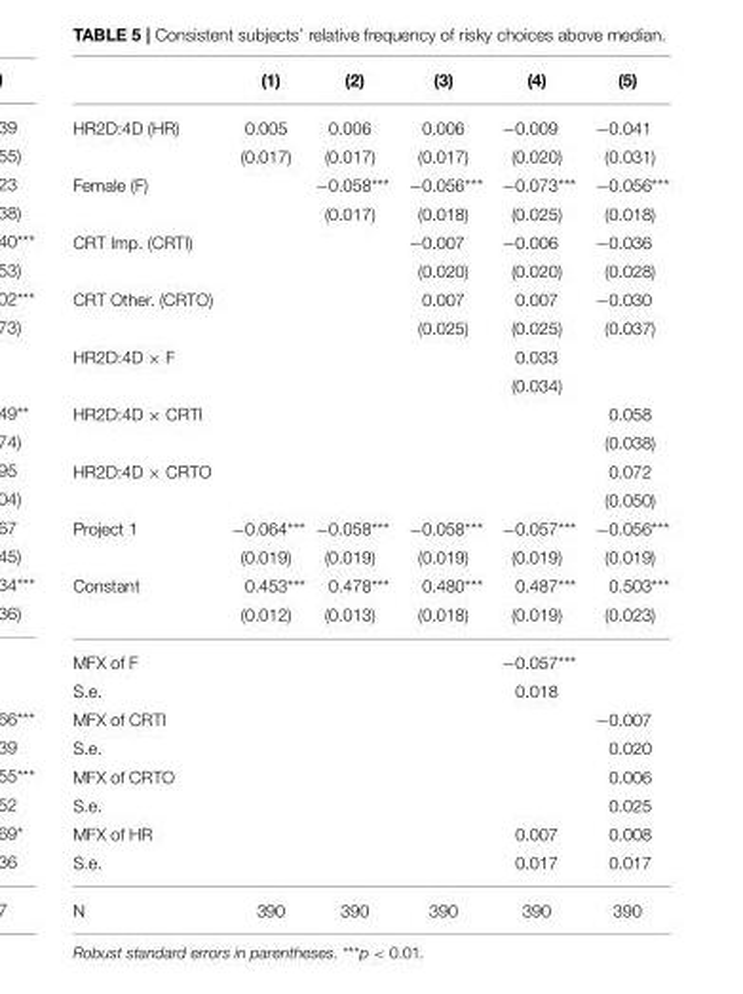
<table><thead><tr><td></td><td>(1)</td><td>(2)</td><td>(3)</td><td>(4)</td><td>(5)</td></tr></thead><tbody><tr><td rowspan="2">HR2D:4D (HR)</td><td>0.005</td><td>0.006</td><td>0.006</td><td>−0.009</td><td>−0.041</td></tr><tr><td>(0.017)</td><td>(0.017)</td><td>(0.017)</td><td>(0.020)</td><td>(0.031)</td></tr><tr><td rowspan="2">Female (F)</td><td></td><td>−0.058***</td><td>−0.056***</td><td>−0.073***</td><td>−0.056***</td></tr><tr><td></td><td>(0.017)</td><td>(0.018)</td><td>(0.025)</td><td>(0.018)</td></tr><tr><td rowspan="2">CRT Imp. (CRTI)</td><td></td><td></td><td>−0.007</td><td>−0.006</td><td>−0.036</td></tr><tr><td></td><td></td><td>(0.020)</td><td>(0.020)</td><td>(0.028)</td></tr><tr><td rowspan="2">CRT Other. (CRTO)</td><td></td><td></td><td>0.007</td><td>0.007</td><td>−0.030</td></tr><tr><td></td><td></td><td>(0.025)</td><td>(0.025)</td><td>(0.037)</td></tr><tr><td rowspan="2">HR2D:4D × F</td><td></td><td></td><td></td><td>0.033</td><td></td></tr><tr><td></td><td></td><td></td><td>(0.034)</td><td></td></tr><tr><td rowspan="2">HR2D:4D × CRTI</td><td></td><td></td><td></td><td></td><td>0.058</td></tr><tr><td></td><td></td><td></td><td></td><td>(0.038)</td></tr><tr><td rowspan="2">HR2D:4D × CRTO</td><td></td><td></td><td></td><td></td><td>0.072</td></tr><tr><td></td><td></td><td></td><td></td><td>(0.050)</td></tr><tr><td rowspan="2">Project 1</td><td>−0.064***</td><td>−0.058***</td><td>−0.058***</td><td>−0.057***</td><td>−0.056***</td></tr><tr><td>(0.019)</td><td>(0.019)</td><td>(0.019)</td><td>(0.019)</td><td>(0.019)</td></tr><tr><td rowspan="2">Constant</td><td>0.453***</td><td>0.478***</td><td>0.480***</td><td>0.487***</td><td>0.503***</td></tr><tr><td>(0.012)</td><td>(0.013)</td><td>(0.018)</td><td>(0.019)</td><td>(0.023)</td></tr><tr><td>MFX of F</td><td></td><td></td><td></td><td>−0.057***</td><td></td></tr><tr><td>S.e.</td><td></td><td></td><td></td><td>0.018</td><td></td></tr><tr><td>MFX of CRTI</td><td></td><td></td><td></td><td></td><td>−0.007</td></tr><tr><td>S.e.</td><td></td><td></td><td></td><td></td><td>0.020</td></tr><tr><td>MFX of CRTO</td><td></td><td></td><td></td><td></td><td>0.006</td></tr><tr><td>S.e.</td><td></td><td></td><td></td><td></td><td>0.025</td></tr><tr><td>MFX of HR</td><td></td><td></td><td></td><td>0.007</td><td>0.008</td></tr><tr><td>S.e.</td><td></td><td></td><td></td><td>0.017</td><td>0.017</td></tr><tr><td>N</td><td>390</td><td>390</td><td>390</td><td>390</td><td>390</td></tr></tbody></table>